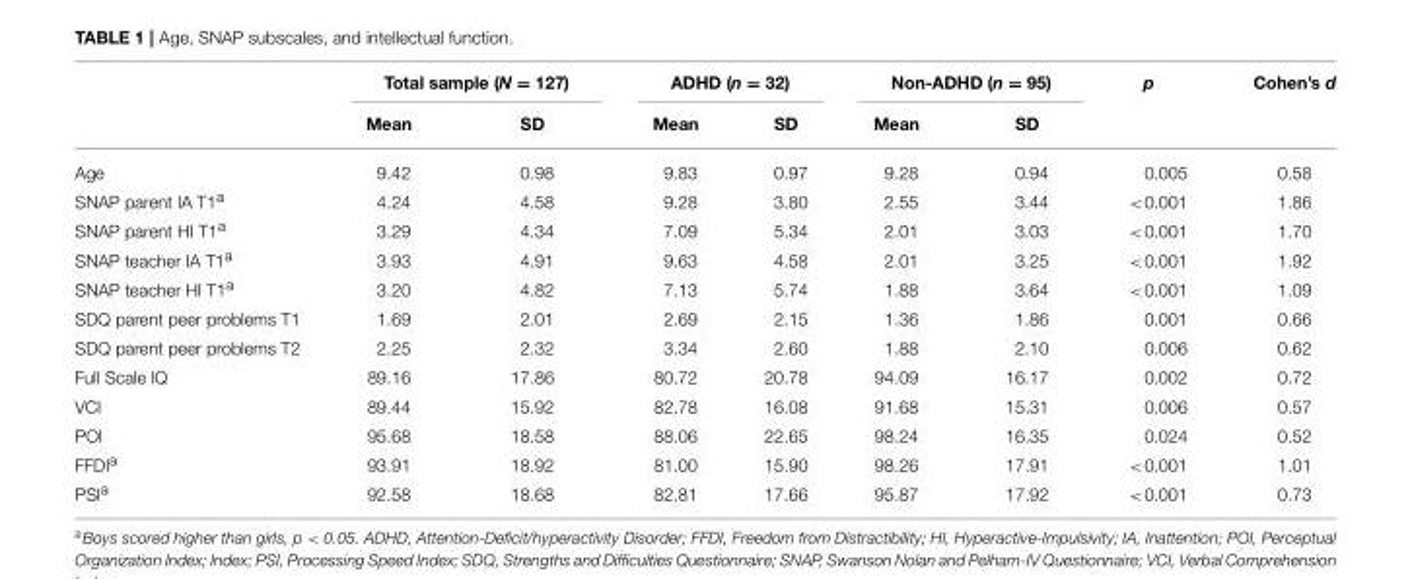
<table><thead><tr><td rowspan="2"></td><td colspan="2">Total sample (N = 127)</td><td colspan="2">ADHD (n = 32)</td><td colspan="2">Non-ADHD (n = 95)</td><td rowspan="2">p</td><td rowspan="2">Cohen’s d</td></tr><tr><td>Mean</td><td>SD</td><td>Mean</td><td>SD</td><td>Mean</td><td>SD</td></tr></thead><tbody><tr><td>Age</td><td>9.42</td><td>0.98</td><td>9.83</td><td>0.97</td><td>9.28</td><td>0.94</td><td>0.005</td><td>0.58</td></tr><tr><td>SNAP parent IA T1<sup>a</sup></td><td>4.24</td><td>4.58</td><td>9.28</td><td>3.80</td><td>2.55</td><td>3.44</td><td>&lt;0.001</td><td>1.86</td></tr><tr><td>SNAP parent HI T1<sup>a</sup></td><td>3.29</td><td>4.34</td><td>7.09</td><td>5.34</td><td>2.01</td><td>3.03</td><td>&lt;0.001</td><td>1.70</td></tr><tr><td>SNAP teacher IA T1<sup>a</sup></td><td>3.93</td><td>4.91</td><td>9.63</td><td>4.58</td><td>2.01</td><td>3.25</td><td>&lt;0.001</td><td>1.92</td></tr><tr><td>SNAP teacher HI T1<sup>a</sup></td><td>3.20</td><td>4.82</td><td>7.13</td><td>5.74</td><td>1.88</td><td>3.64</td><td>&lt;0.001</td><td>1.09</td></tr><tr><td>SDQ parent peer problems T1</td><td>1.69</td><td>2.01</td><td>2.69</td><td>2.15</td><td>1.36</td><td>1.86</td><td>0.001</td><td>0.66</td></tr><tr><td>SDQ parent peer problems T2</td><td>2.25</td><td>2.32</td><td>3.34</td><td>2.60</td><td>1.88</td><td>2.10</td><td>0.006</td><td>0.62</td></tr><tr><td>Full Scale IQ</td><td>89.16</td><td>17.86</td><td>80.72</td><td>20.78</td><td>94.09</td><td>16.17</td><td>0.002</td><td>0.72</td></tr><tr><td>VCI</td><td>89.44</td><td>15.92</td><td>82.78</td><td>16.08</td><td>91.68</td><td>15.31</td><td>0.006</td><td>0.57</td></tr><tr><td>POI</td><td>95.68</td><td>18.58</td><td>88.06</td><td>22.65</td><td>98.24</td><td>16.35</td><td>0.024</td><td>0.52</td></tr><tr><td>FFDI<sup>a</sup></td><td>93.91</td><td>18.92</td><td>81.00</td><td>15.90</td><td>98.26</td><td>17.91</td><td>&lt;0.001</td><td>1.01</td></tr><tr><td>PSI<sup>a</sup></td><td>92.58</td><td>18.68</td><td>82.81</td><td>17.66</td><td>95.87</td><td>17.92</td><td>&lt;0.001</td><td>0.73</td></tr></tbody></table>